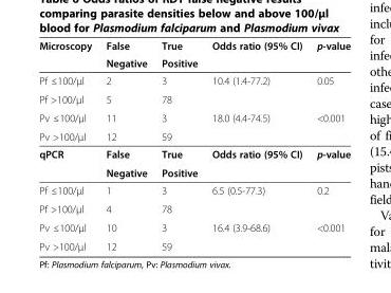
<table><thead><tr><td rowspan="2">Microscopy</td><td rowspan="2">False Negative</td><td rowspan="2">True Positive</td><td rowspan="2">Odds ratio (95% CI)</td><td rowspan="2">p-value</td></tr><tr></tr></thead><tbody><tr><td>Pf ≤100/μl</td><td>2</td><td>3</td><td rowspan="2">10.4 (1.4-77.2)</td><td rowspan="2">0.05</td></tr><tr><td>Pf &gt;100/μl</td><td>5</td><td>78</td></tr><tr><td>Pv ≤100/μl</td><td>11</td><td>3</td><td rowspan="2">18.0 (4.4-74.5)</td><td rowspan="2">&lt;0.001</td></tr><tr><td>Pv &gt;100/μl</td><td>12</td><td>59</td></tr><tr><td rowspan="2">qPCR</td><td>False</td><td>True</td><td rowspan="2">Odds ratio (95% CI)</td><td rowspan="2">p-value</td></tr><tr><td>Negative</td><td>Positive</td></tr><tr><td>Pf ≤100/μl</td><td>1</td><td>3</td><td rowspan="2">6.5 (0.5-77.3)</td><td rowspan="2">0.2</td></tr><tr><td>Pf &gt;100/μl</td><td>4</td><td>78</td></tr><tr><td>Pv ≤100/μl</td><td>10</td><td>3</td><td rowspan="2">16.4 (3.9-68.6)</td><td rowspan="2">&lt;0.001</td></tr><tr><td>Pv &gt;100/μl</td><td>12</td><td>59</td></tr></tbody></table>